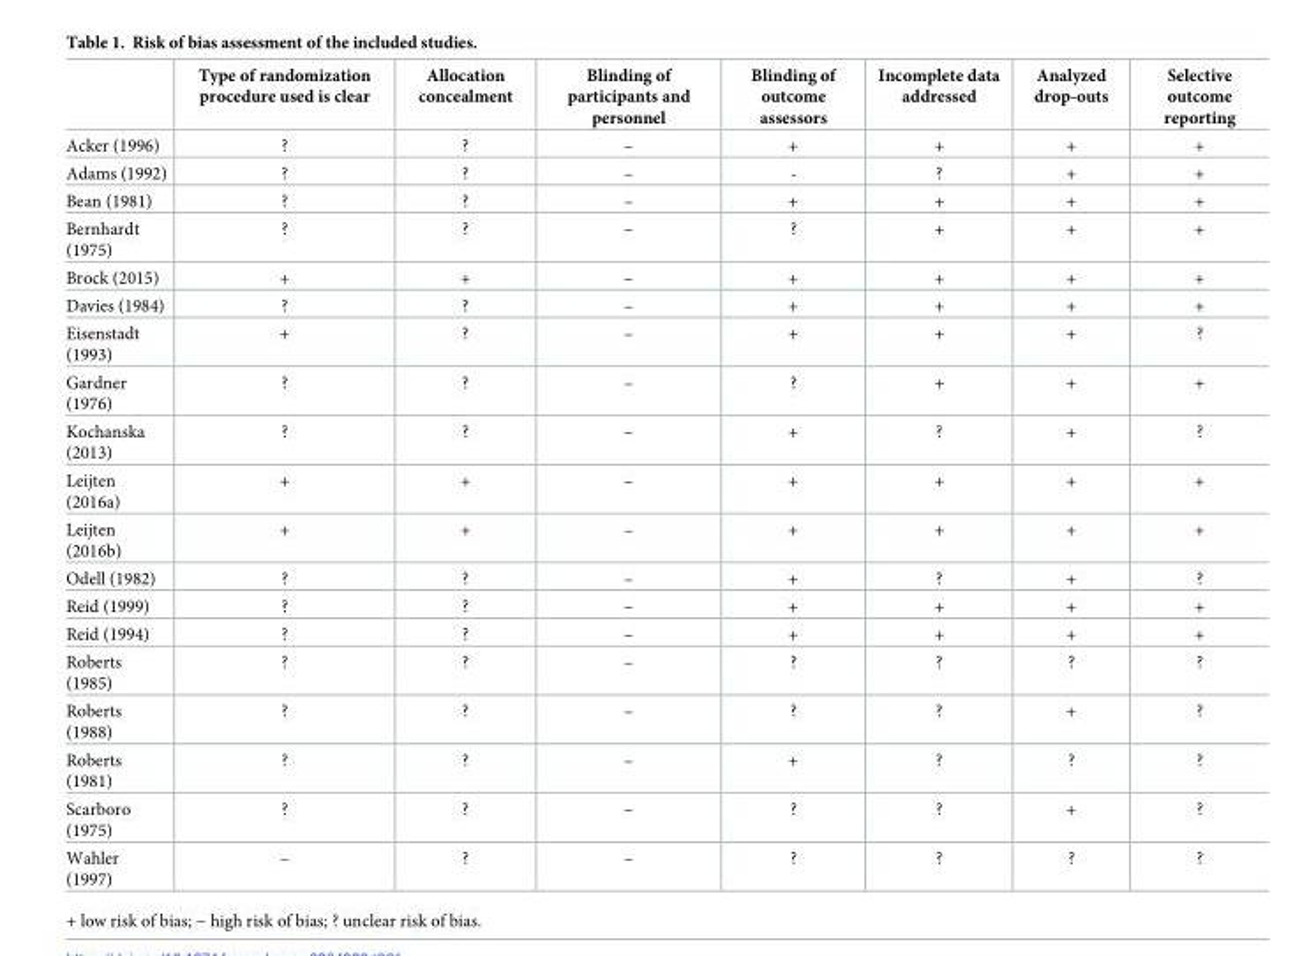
<table><thead><tr><td></td><td>Type of randomization procedure used is clear</td><td>Allocation concealment</td><td>Blinding of participants and personnel</td><td>Blinding of outcome assessors</td><td>Incomplete data addressed</td><td>Analyzed drop-outs</td><td>Selective outcome reporting</td></tr></thead><tbody><tr><td>Acker (1996)</td><td>?</td><td>?</td><td>–</td><td>+</td><td>+</td><td>+</td><td>+</td></tr><tr><td>Adams (1992)</td><td>?</td><td>?</td><td>–</td><td>-</td><td>?</td><td>+</td><td>+</td></tr><tr><td>Bean (1981)</td><td>?</td><td>?</td><td>–</td><td>+</td><td>+</td><td>+</td><td>+</td></tr><tr><td>Bernhardt (1975)</td><td>?</td><td>?</td><td>–</td><td>?</td><td>+</td><td>+</td><td>+</td></tr><tr><td>Brock (2015)</td><td>+</td><td>+</td><td>–</td><td>+</td><td>+</td><td>+</td><td>+</td></tr><tr><td>Davies (1984)</td><td>?</td><td>?</td><td>–</td><td>+</td><td>+</td><td>+</td><td>+</td></tr><tr><td>Eisenstadt (1993)</td><td>+</td><td>?</td><td>–</td><td>+</td><td>+</td><td>+</td><td>?</td></tr><tr><td>Gardner (1976)</td><td>?</td><td>?</td><td>–</td><td>?</td><td>+</td><td>+</td><td>+</td></tr><tr><td>Kochanska (2013)</td><td>?</td><td>?</td><td>–</td><td>+</td><td>?</td><td>+</td><td>?</td></tr><tr><td>Leijten (2016a)</td><td>+</td><td>+</td><td>–</td><td>+</td><td>+</td><td>+</td><td>+</td></tr><tr><td>Leijten (2016b)</td><td>+</td><td>+</td><td>–</td><td>+</td><td>+</td><td>+</td><td>+</td></tr><tr><td>Odell (1982)</td><td>?</td><td>?</td><td>–</td><td>+</td><td>?</td><td>+</td><td>?</td></tr><tr><td>Reid (1999)</td><td>?</td><td>?</td><td>–</td><td>+</td><td>+</td><td>+</td><td>+</td></tr><tr><td>Reid (1994)</td><td>?</td><td>?</td><td>–</td><td>+</td><td>+</td><td>+</td><td>+</td></tr><tr><td>Roberts (1985)</td><td>?</td><td>?</td><td>–</td><td>?</td><td>?</td><td>?</td><td>?</td></tr><tr><td>Roberts (1988)</td><td>?</td><td>?</td><td>–</td><td>?</td><td>?</td><td>+</td><td>?</td></tr><tr><td>Roberts (1981)</td><td>?</td><td>?</td><td>–</td><td>+</td><td>?</td><td>?</td><td>?</td></tr><tr><td>Scarboro (1975)</td><td>?</td><td>?</td><td>–</td><td>?</td><td>?</td><td>+</td><td>?</td></tr><tr><td>Wahler (1997)</td><td>–</td><td>?</td><td>–</td><td>?</td><td>?</td><td>?</td><td>?</td></tr></tbody></table>